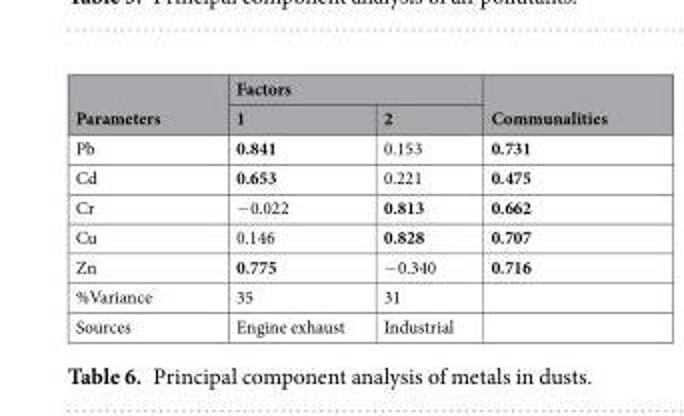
<table><thead><tr><td rowspan="2">Parameters</td><td colspan="2">Factors</td><td rowspan="2">Communalities</td></tr><tr><td>1</td><td>2</td></tr></thead><tbody><tr><td>Pb</td><td>0.841</td><td>0.153</td><td>0.731</td></tr><tr><td>Cd</td><td>0.653</td><td>0.221</td><td>0.475</td></tr><tr><td>Cr</td><td>−0.022</td><td>0.813</td><td>0.662</td></tr><tr><td>Cu</td><td>0.146</td><td>0.828</td><td>0.707</td></tr><tr><td>Zn</td><td>0.775</td><td>−0.340</td><td>0.716</td></tr><tr><td>%Variance</td><td>35</td><td>31</td><td></td></tr><tr><td>Sources</td><td>Engine exhaust</td><td>Industrial</td><td></td></tr></tbody></table>